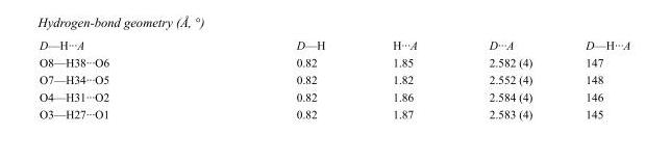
<table><tbody><tr><td>D—H···A</td><td>D—H</td><td>H···A</td><td>D···A</td><td>D—H···A</td></tr><tr><td>O8—H38···O6</td><td>0.82</td><td>1.85</td><td>2.582 (4)</td><td>147</td></tr><tr><td>O7—H34···O5</td><td>0.82</td><td>1.82</td><td>2.552 (4)</td><td>148</td></tr><tr><td>O4—H31···O2</td><td>0.82</td><td>1.86</td><td>2.584 (4)</td><td>146</td></tr><tr><td>O3—H27···O1</td><td>0.82</td><td>1.87</td><td>2.583 (4)</td><td>145</td></tr></tbody></table>